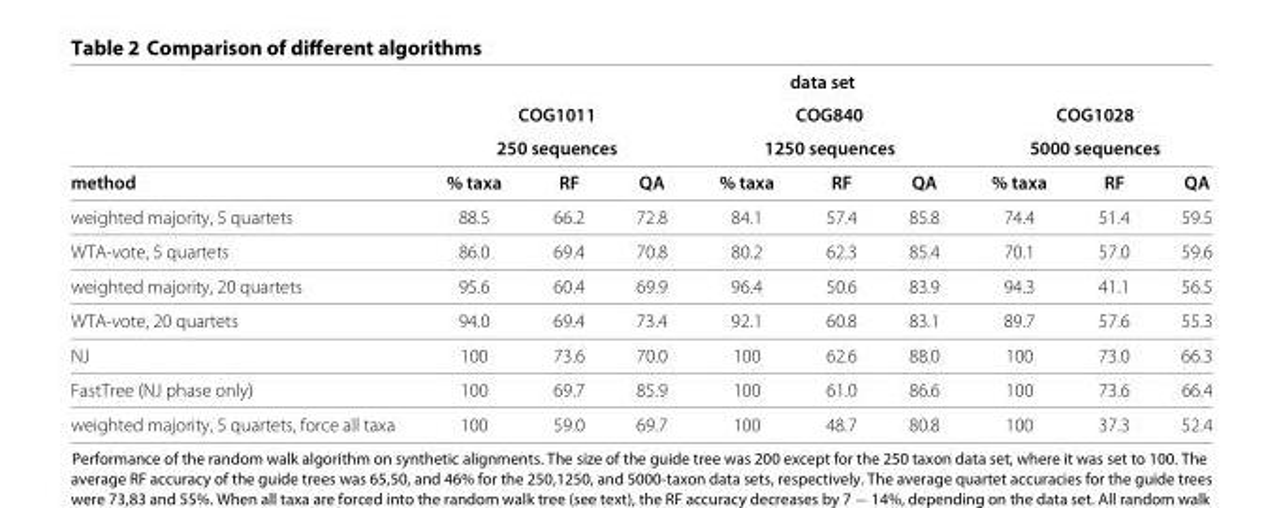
<table><thead><tr><td rowspan="3"></td><td></td><td></td><td></td><td></td><td>data set</td><td></td><td></td><td></td><td></td></tr><tr><td rowspan="2" colspan="3">COG1011 250 sequences</td><td rowspan="2" colspan="3">COG840 1250 sequences</td><td rowspan="2" colspan="3">COG1028 5000 sequences</td></tr><tr></tr></thead><tbody><tr><td>method</td><td>% taxa</td><td>RF</td><td>QA</td><td>% taxa</td><td>RF</td><td>QA</td><td>% taxa</td><td>RF</td><td>QA</td></tr><tr><td>weighted majority, 5 quartets</td><td>88.5</td><td>66.2</td><td>72.8</td><td>84.1</td><td>57.4</td><td>85.8</td><td>74.4</td><td>51.4</td><td>59.5</td></tr><tr><td>WTA-vote, 5 quartets</td><td>86.0</td><td>69.4</td><td>70.8</td><td>80.2</td><td>62.3</td><td>85.4</td><td>70.1</td><td>57.0</td><td>59.6</td></tr><tr><td>weighted majority, 20 quartets</td><td>95.6</td><td>60.4</td><td>69.9</td><td>96.4</td><td>50.6</td><td>83.9</td><td>94.3</td><td>41.1</td><td>56.5</td></tr><tr><td>WTA-vote, 20 quartets</td><td>94.0</td><td>69.4</td><td>73.4</td><td>92.1</td><td>60.8</td><td>83.1</td><td>89.7</td><td>57.6</td><td>55.3</td></tr><tr><td>NJ</td><td>100</td><td>73.6</td><td>70.0</td><td>100</td><td>62.6</td><td>88.0</td><td>100</td><td>73.0</td><td>66.3</td></tr><tr><td>FastTree (NJ phase only)</td><td>100</td><td>69.7</td><td>85.9</td><td>100</td><td>61.0</td><td>86.6</td><td>100</td><td>73.6</td><td>66.4</td></tr><tr><td>weighted majority, 5 quartets, force all taxa</td><td>100</td><td>59.0</td><td>69.7</td><td>100</td><td>48.7</td><td>80.8</td><td>100</td><td>37.3</td><td>52.4</td></tr></tbody></table>